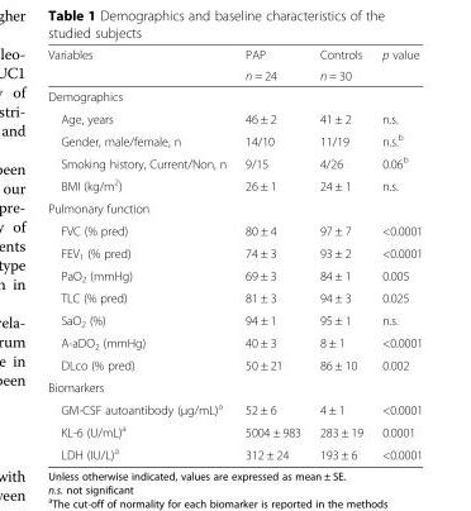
<table><thead><tr><td rowspan="2">Variables</td><td rowspan="2">PAP n = 24</td><td rowspan="2">Controls n = 30</td><td rowspan="2">p value</td></tr><tr></tr></thead><tbody><tr><td colspan="4">Demographics</td></tr><tr><td>Age, years</td><td>46 ± 2</td><td>41 ± 2</td><td>n.s.</td></tr><tr><td>Gender, male/female, n</td><td>14/10</td><td>11/19</td><td>n.s.<sup>b</sup></td></tr><tr><td>Smoking history, Current/Non, n</td><td>9/15</td><td>4/26</td><td>0.06<sup>b</sup></td></tr><tr><td>BMI (kg/m<sup>2</sup>)</td><td>26 ± 1</td><td>24 ± 1</td><td>n.s.</td></tr><tr><td colspan="4">Pulmonary function</td></tr><tr><td>FVC (% pred)</td><td>80 ± 4</td><td>97 ± 7</td><td>&lt;0.0001</td></tr><tr><td>FEV<sub>1</sub> (% pred)</td><td>74 ± 3</td><td>93 ± 2</td><td>&lt;0.0001</td></tr><tr><td>PaO<sub>2</sub> (mmHg)</td><td>69 ± 3</td><td>84 ± 1</td><td>0.005</td></tr><tr><td>TLC (% pred)</td><td>81 ± 3</td><td>94 ± 3</td><td>0.025</td></tr><tr><td>SaO<sub>2</sub> (%)</td><td>94 ± 1</td><td>95 ± 1</td><td>n.s.</td></tr><tr><td>A-aDO<sub>2</sub> (mmHg)</td><td>40 ± 3</td><td>8 ± 1</td><td>&lt;0.0001</td></tr><tr><td>DLco (% pred)</td><td>50 ± 21</td><td>86 ± 10</td><td>0.002</td></tr><tr><td colspan="4">Biomarkers</td></tr><tr><td>GM-CSF autoantibody (μg/mL)<sup>a</sup></td><td>52 ± 6</td><td>4 ± 1</td><td>&lt;0.0001</td></tr><tr><td>KL-6 (U/mL)<sup>a</sup></td><td>5004 ± 983</td><td>283 ± 19</td><td>0.0001</td></tr><tr><td>LDH (IU/L)<sup>a</sup></td><td>312 ± 24</td><td>193 ± 6</td><td>&lt;0.0001</td></tr></tbody></table>